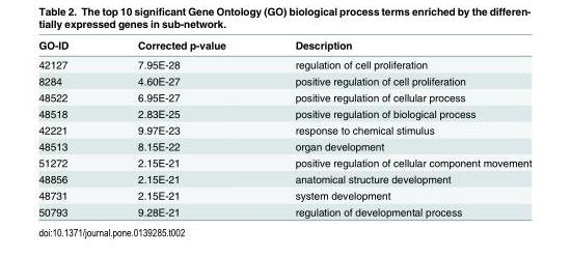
<table><thead><tr><td>GO-ID</td><td>Corrected p-value</td><td>Description</td></tr></thead><tbody><tr><td>42127</td><td>7.95E-28</td><td>regulation of cell proliferation</td></tr><tr><td>8284</td><td>4.60E-27</td><td>positive regulation of cell proliferation</td></tr><tr><td>48522</td><td>6.95E-27</td><td>positive regulation of cellular process</td></tr><tr><td>48518</td><td>2.83E-25</td><td>positive regulation of biological process</td></tr><tr><td>42221</td><td>9.97E-23</td><td>response to chemical stimulus</td></tr><tr><td>48513</td><td>8.15E-22</td><td>organ development</td></tr><tr><td>51272</td><td>2.15E-21</td><td>positive regulation of cellular component movement</td></tr><tr><td>48856</td><td>2.15E-21</td><td>anatomical structure development</td></tr><tr><td>48731</td><td>2.15E-21</td><td>system development</td></tr><tr><td>50793</td><td>9.28E-21</td><td>regulation of developmental process</td></tr></tbody></table>